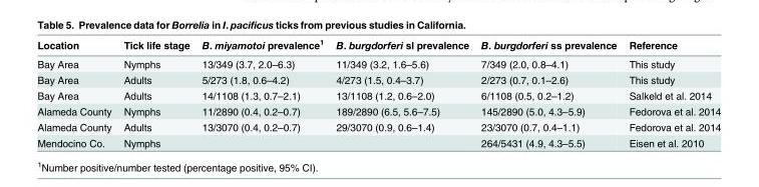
<table><thead><tr><td>Location</td><td>Tick life stage</td><td>B. miyamotoi prevalence<sup>1</sup></td><td>B. burgdorferi sl prevalence</td><td>B. burgdorferi ss prevalence</td><td>Reference</td></tr></thead><tbody><tr><td>Bay Area</td><td>Nymphs</td><td>13/349 (3.7, 2.0–6.3)</td><td>11/349 (3.2, 1.6–5.6)</td><td>7/349 (2.0, 0.8–4.1)</td><td>This study</td></tr><tr><td>Bay Area</td><td>Adults</td><td>5/273 (1.8, 0.6–4.2)</td><td>4/273 (1.5, 0.4–3.7)</td><td>2/273 (0.7, 0.1–2.6)</td><td>This study</td></tr><tr><td>Bay Area</td><td>Adults</td><td>14/1108 (1.3, 0.7–2.1)</td><td>13/1108 (1.2, 0.6–2.0)</td><td>6/1108 (0.5, 0.2–1.2)</td><td>Salkeld et al. 2014</td></tr><tr><td>Alameda County</td><td>Nymphs</td><td>11/2890 (0.4, 0.2–0.7)</td><td>189/2890 (6.5, 5.6–7.5)</td><td>145/2890 (5.0, 4.3–5.9)</td><td>Fedorova et al. 2014</td></tr><tr><td>Alameda County</td><td>Adults</td><td>13/3070 (0.4, 0.2–0.7)</td><td>29/3070 (0.9, 0.6–1.4)</td><td>23/3070 (0.7, 0.4–1.1)</td><td>Fedorova et al. 2014</td></tr><tr><td>Mendocino Co.</td><td>Nymphs</td><td></td><td></td><td>264/5431 (4.9, 4.3–5.5)</td><td>Eisen et al. 2010</td></tr></tbody></table>